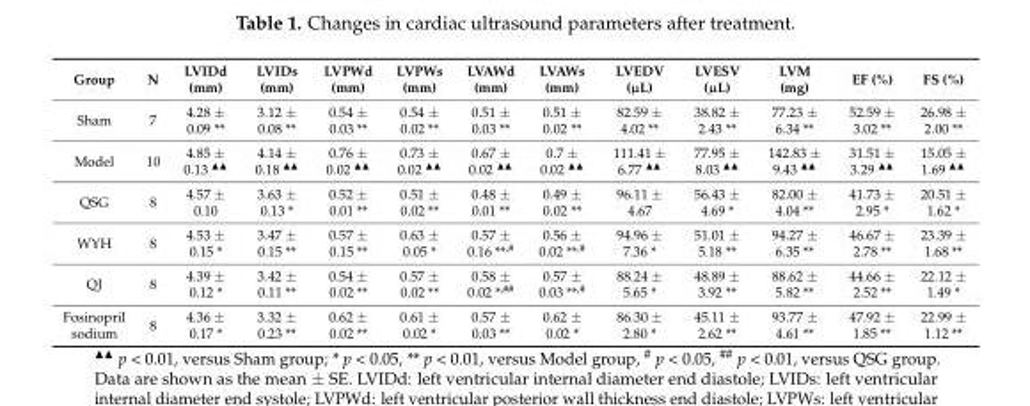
<table><thead><tr><td>Group</td><td>N</td><td>LVIDd (mm)</td><td>LVIDs (mm)</td><td>LVPWd (mm)</td><td>LVPWs (mm)</td><td>LVAWd (mm)</td><td>LVAWs (mm)</td><td>LVEDV (µL)</td><td>LVESV (µL)</td><td>LVM (mg)</td><td>EF (%)</td><td>FS (%)</td></tr></thead><tbody><tr><td>Sham</td><td>7</td><td>4.28 ± 0.09 **</td><td>3.12 ± 0.08 **</td><td>0.54 ± 0.03 **</td><td>0.54 ± 0.02 **</td><td>0.51 ± 0.03 **</td><td>0.51 ± 0.02 **</td><td>82.59 ± 4.02 **</td><td>38.82 ± 2.43 **</td><td>77.23 ± 6.34 **</td><td>52.59 ± 3.02 **</td><td>26.98 ± 2.00 **</td></tr><tr><td>Model</td><td>10</td><td>4.85 ± 0.13 <sup>▲▲</sup></td><td>4.14 ± 0.18 <sup>▲▲</sup></td><td>0.76 ± 0.02 <sup>▲▲</sup></td><td>0.73 ± 0.02 <sup>▲▲</sup></td><td>0.67 ± 0.02 <sup>▲▲</sup></td><td>0.7 ± 0.02 <sup>▲▲</sup></td><td>111.41 ± 6.77 <sup>▲▲</sup></td><td>77.95 ± 8.03 <sup>▲▲</sup></td><td>142.83 ± 9.43 <sup>▲▲</sup></td><td>31.51 ± 3.29 <sup>▲▲</sup></td><td>15.05 ± 1.69 <sup>▲▲</sup></td></tr><tr><td>QSG</td><td>8</td><td>4.57 ± 0.10</td><td>3.63 ± 0.13 *</td><td>0.52 ± 0.01 **</td><td>0.51 ± 0.02 **</td><td>0.48 ± 0.01 **</td><td>0.49 ± 0.02 **</td><td>96.11 ± 4.67</td><td>56.43 ± 4.69 *</td><td>82.00 ± 4.04 **</td><td>41.73 ± 2.95 *</td><td>20.51 ± 1.62 *</td></tr><tr><td>WYH</td><td>8</td><td>4.53 ± 0.15 *</td><td>3.47 ± 0.15 **</td><td>0.57 ± 0.15 **</td><td>0.63 ± 0.05 *</td><td>0.57 ± 0.16 **<sup>,#</sup></td><td>0.56 ± 0.02 **<sup>,#</sup></td><td>94.96 ± 7.36 *</td><td>51.01 ± 5.18 **</td><td>94.27 ± 6.35 **</td><td>46.67 ± 2.78 **</td><td>23.39 ± 1.68 **</td></tr><tr><td>QJ</td><td>8</td><td>4.39 ± 0.12 *</td><td>3.42 ± 0.11 **</td><td>0.54 ± 0.02 **</td><td>0.57 ± 0.02 **</td><td>0.58 ± 0.02 *<sup>,##</sup></td><td>0.57 ± 0.03 **<sup>,#</sup></td><td>88.24 ± 5.65 *</td><td>48.89 ± 3.92 **</td><td>88.62 ± 5.82 **</td><td>44.66 ± 2.52 **</td><td>22.12 ± 1.49 *</td></tr><tr><td>Fosinopril sodium</td><td>8</td><td>4.36 ± 0.17 *</td><td>3.32 ± 0.23 **</td><td>0.62 ± 0.02 **</td><td>0.61 ± 0.02 *</td><td>0.57 ± 0.03 **</td><td>0.62 ± 0.02 *</td><td>86.30 ± 2.80 *</td><td>45.11 ± 2.62 **</td><td>93.77 ± 4.61 **</td><td>47.92 ± 1.85 **</td><td>22.99 ± 1.12 **</td></tr></tbody></table>